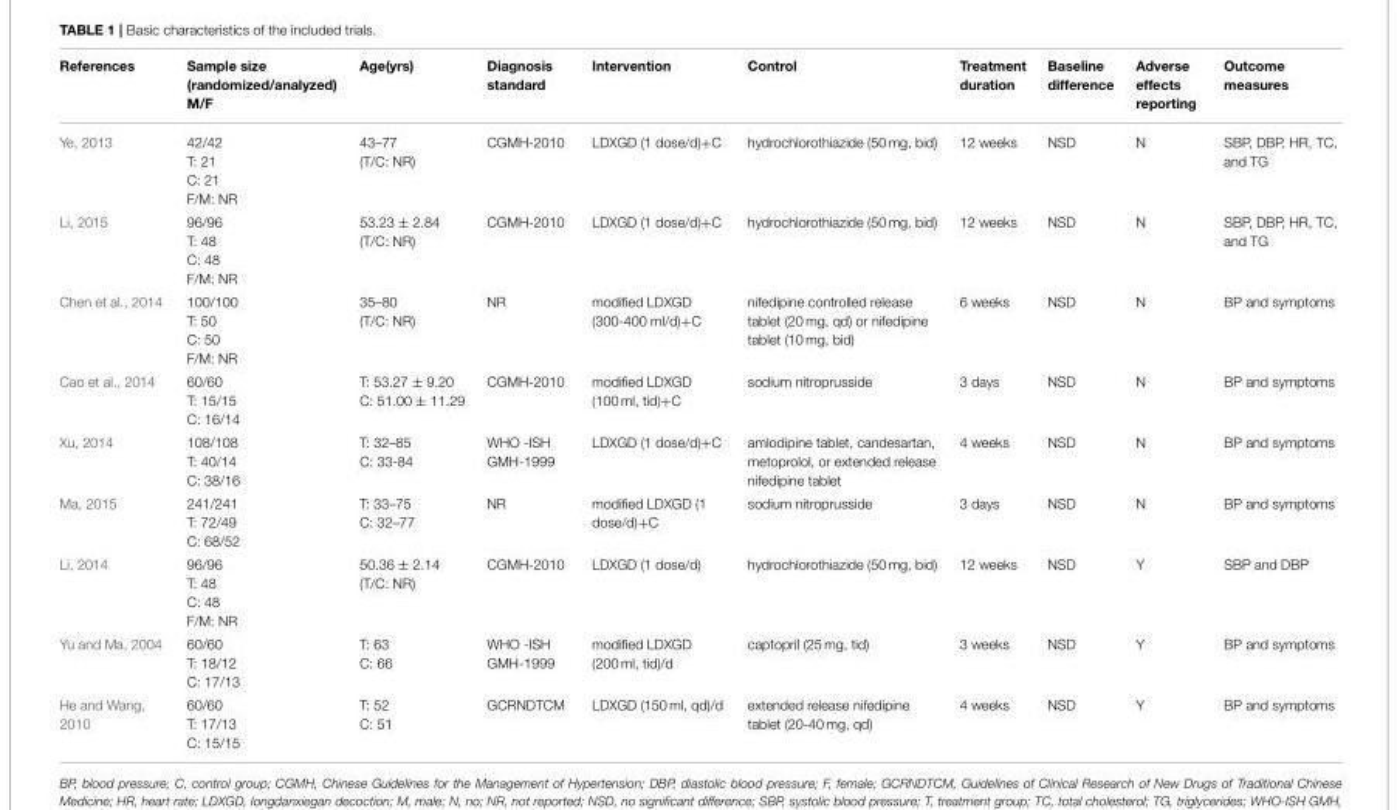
<table><thead><tr><td>References</td><td>Sample size (randomized/analyzed) M/F</td><td>Age(yrs)</td><td>Diagnosis standard</td><td>Intervention</td><td>Control</td><td>Treatment duration</td><td>Baseline difference</td><td>Adverse effects reporting</td><td>Outcome measures</td></tr></thead><tbody><tr><td>Ye, 2013</td><td>42/42 T: 21 C: 21 F/M: NR</td><td>43–77 (T/C: NR)</td><td>CGMH-2010</td><td>LDXGD (1 dose/d)+C</td><td>hydrochlorothiazide (50 mg, bid)</td><td>12 weeks</td><td>NSD</td><td>N</td><td>SBP, DBP, HR, TC, and TG</td></tr><tr><td>Li, 2015</td><td>96/96 T: 48 C: 48 F/M: NR</td><td>53.23 ± 2.84 (T/C: NR)</td><td>CGMH-2010</td><td>LDXGD (1 dose/d)+C</td><td>hydrochlorothiazide (50 mg, bid)</td><td>12 weeks</td><td>NSD</td><td>N</td><td>SBP, DBP, HR, TC, and TG</td></tr><tr><td>Chen et al., 2014</td><td>100/100 T: 50 C: 50 F/M: NR</td><td>35–80 (T/C: NR)</td><td>NR</td><td>modified LDXGD (300-400 ml/d)+C</td><td>nifedipine controlled release tablet (20 mg, qd) or nifedipine tablet (10 mg, bid)</td><td>6 weeks</td><td>NSD</td><td>N</td><td>BP and symptoms</td></tr><tr><td>Cao et al., 2014</td><td>60/60 T: 15/15 C: 16/14</td><td>T: 53.27 ± 9.20 C: 51.00 ± 11.29</td><td>CGMH-2010</td><td>modified LDXGD (100 ml, tid)+C</td><td>sodium nitroprusside</td><td>3 days</td><td>NSD</td><td>N</td><td>BP and symptoms</td></tr><tr><td>Xu, 2014</td><td>108/108 T: 40/14 C: 38/16</td><td>T: 32–85 C: 33-84</td><td>WHO -ISH GMH-1999</td><td>LDXGD (1 dose/d)+C</td><td>amlodipine tablet, candesartan, metoprolol, or extended release nifedipine tablet</td><td>4 weeks</td><td>NSD</td><td>N</td><td>BP and symptoms</td></tr><tr><td>Ma, 2015</td><td>241/241 T: 72/49 C: 68/52</td><td>T: 33–75 C: 32–77</td><td>NR</td><td>modified LDXGD (1 dose/d)+C</td><td>sodium nitroprusside</td><td>3 days</td><td>NSD</td><td>N</td><td>BP and symptoms</td></tr><tr><td>Li, 2014</td><td>96/96 T: 48 C: 48 F/M: NR</td><td>50.36 ± 2.14 (T/C: NR)</td><td>CGMH-2010</td><td>LDXGD (1 dose/d)</td><td>hydrochlorothiazide (50 mg, bid)</td><td>12 weeks</td><td>NSD</td><td>Y</td><td>SBP and DBP</td></tr><tr><td>Yu and Ma, 2004</td><td>60/60 T: 18/12 C: 17/13</td><td>T: 63 C: 66</td><td>WHO -ISH GMH-1999</td><td>modified LDXGD (200 ml, tid)/d</td><td>captopril (25 mg, tid)</td><td>3 weeks</td><td>NSD</td><td>Y</td><td>BP and symptoms</td></tr><tr><td>He and Wang, 2010</td><td>60/60 T: 17/13 C: 15/15</td><td>T: 52 C: 51</td><td>GCRNDTCM</td><td>LDXGD (150 ml, qd)/d</td><td>extended release nifedipine tablet (20-40 mg, qd)</td><td>4 weeks</td><td>NSD</td><td>Y</td><td>BP and symptoms</td></tr></tbody></table>